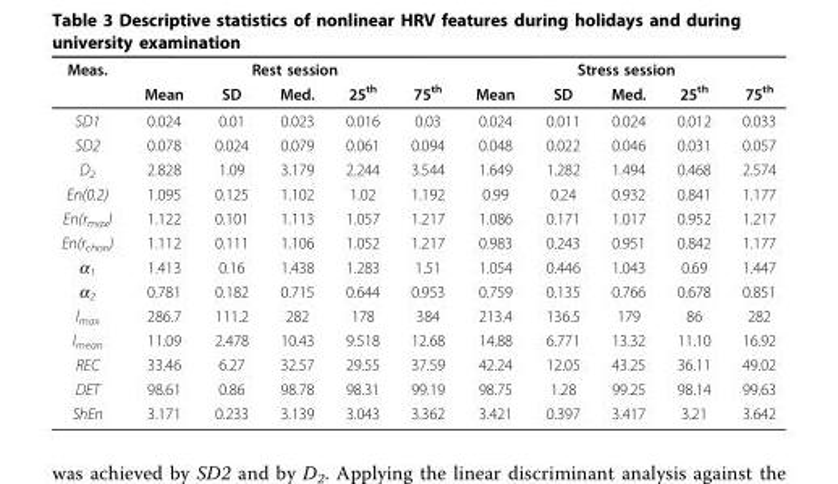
<table><thead><tr><td rowspan="2">Meas.</td><td colspan="5">Rest session</td><td colspan="5">Stress session</td></tr><tr><td>Mean</td><td>SD</td><td>Med.</td><td>25<sup>th</sup></td><td>75<sup>th</sup></td><td>Mean</td><td>SD</td><td>Med.</td><td>25<sup>th</sup></td><td>75<sup>th</sup></td></tr></thead><tbody><tr><td>SD1</td><td>0.024</td><td>0.01</td><td>0.023</td><td>0.016</td><td>0.03</td><td>0.024</td><td>0.011</td><td>0.024</td><td>0.012</td><td>0.033</td></tr><tr><td>SD2</td><td>0.078</td><td>0.024</td><td>0.079</td><td>0.061</td><td>0.094</td><td>0.048</td><td>0.022</td><td>0.046</td><td>0.031</td><td>0.057</td></tr><tr><td>D<sub>2</sub></td><td>2.828</td><td>1.09</td><td>3.179</td><td>2.244</td><td>3.544</td><td>1.649</td><td>1.282</td><td>1.494</td><td>0.468</td><td>2.574</td></tr><tr><td>En(0.2)</td><td>1.095</td><td>0.125</td><td>1.102</td><td>1.02</td><td>1.192</td><td>0.99</td><td>0.24</td><td>0.932</td><td>0.841</td><td>1.177</td></tr><tr><td>En(r<sub>max</sub>)</td><td>1.122</td><td>0.101</td><td>1.113</td><td>1.057</td><td>1.217</td><td>1.086</td><td>0.171</td><td>1.017</td><td>0.952</td><td>1.217</td></tr><tr><td>En(r<sub>chon</sub>)</td><td>1.112</td><td>0.111</td><td>1.106</td><td>1.052</td><td>1.217</td><td>0.983</td><td>0.243</td><td>0.951</td><td>0.842</td><td>1.177</td></tr><tr><td>α<sub>1</sub></td><td>1.413</td><td>0.16</td><td>1.438</td><td>1.283</td><td>1.51</td><td>1.054</td><td>0.446</td><td>1.043</td><td>0.69</td><td>1.447</td></tr><tr><td>α<sub>2</sub></td><td>0.781</td><td>0.182</td><td>0.715</td><td>0.644</td><td>0.953</td><td>0.759</td><td>0.135</td><td>0.766</td><td>0.678</td><td>0.851</td></tr><tr><td>l<sub>max</sub></td><td>286.7</td><td>111.2</td><td>282</td><td>178</td><td>384</td><td>213.4</td><td>136.5</td><td>179</td><td>86</td><td>282</td></tr><tr><td>l<sub>mean</sub></td><td>11.09</td><td>2.478</td><td>10.43</td><td>9.518</td><td>12.68</td><td>14.88</td><td>6.771</td><td>13.32</td><td>11.10</td><td>16.92</td></tr><tr><td>REC</td><td>33.46</td><td>6.27</td><td>32.57</td><td>29.55</td><td>37.59</td><td>42.24</td><td>12.05</td><td>43.25</td><td>36.11</td><td>49.02</td></tr><tr><td>DET</td><td>98.61</td><td>0.86</td><td>98.78</td><td>98.31</td><td>99.19</td><td>98.75</td><td>1.28</td><td>99.25</td><td>98.14</td><td>99.63</td></tr><tr><td>ShEn</td><td>3.171</td><td>0.233</td><td>3.139</td><td>3.043</td><td>3.362</td><td>3.421</td><td>0.397</td><td>3.417</td><td>3.21</td><td>3.642</td></tr></tbody></table>